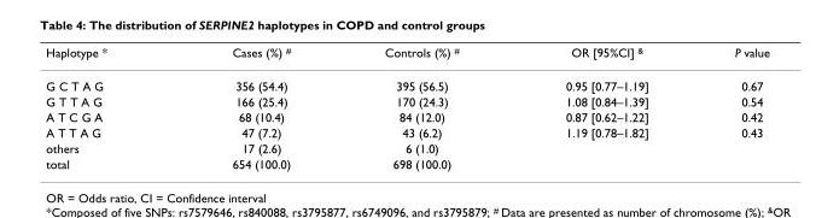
<table><thead><tr><td>Haplotype *</td><td>Cases (%) <sup>#</sup></td><td>Controls (%) <sup>#</sup></td><td>OR [95%CI] <sup>&amp;</sup></td><td>P value</td></tr></thead><tbody><tr><td>G C T A G</td><td>356 (54.4)</td><td>395 (56.5)</td><td>0.95 [0.77–1.19]</td><td>0.67</td></tr><tr><td>G T T A G</td><td>166 (25.4)</td><td>170 (24.3)</td><td>1.08 [0.84–1.39]</td><td>0.54</td></tr><tr><td>A T C G A</td><td>68 (10.4)</td><td>84 (12.0)</td><td>0.87 [0.62–1.22]</td><td>0.42</td></tr><tr><td>A T T A G</td><td>47 (7.2)</td><td>43 (6.2)</td><td>1.19 [0.78–1.82]</td><td>0.43</td></tr><tr><td>others</td><td>17 (2.6)</td><td>6 (1.0)</td><td></td><td></td></tr><tr><td>total</td><td>654 (100.0)</td><td>698 (100.0)</td><td></td><td></td></tr></tbody></table>